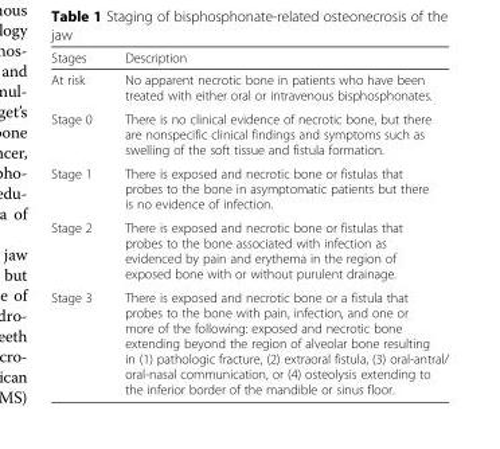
<table><thead><tr><td>Stages</td><td>Description</td></tr></thead><tbody><tr><td>At risk</td><td>No apparent necrotic bone in patients who have been treated with either oral or intravenous bisphosphonates.</td></tr><tr><td>Stage 0</td><td>There is no clinical evidence of necrotic bone, but there are nonspecific clinical findings and symptoms such as swelling of the soft tissue and fistula formation.</td></tr><tr><td>Stage 1</td><td>There is exposed and necrotic bone or fistulas that probes to the bone in asymptomatic patients but there is no evidence of infection.</td></tr><tr><td>Stage 2</td><td>There is exposed and necrotic bone or fistulas that probes to the bone associated with infection as evidenced by pain and erythema in the region of exposed bone with or without purulent drainage.</td></tr><tr><td>Stage 3</td><td>There is exposed and necrotic bone or a fistula that probes to the bone with pain, infection, and one or more of the following: exposed and necrotic bone extending beyond the region of alveolar bone resulting in (1) pathologic fracture, (2) extraoral fistula, (3) oral-antral/ oral-nasal communication, or (4) osteolysis extending to the inferior border of the mandible or sinus floor.</td></tr></tbody></table>